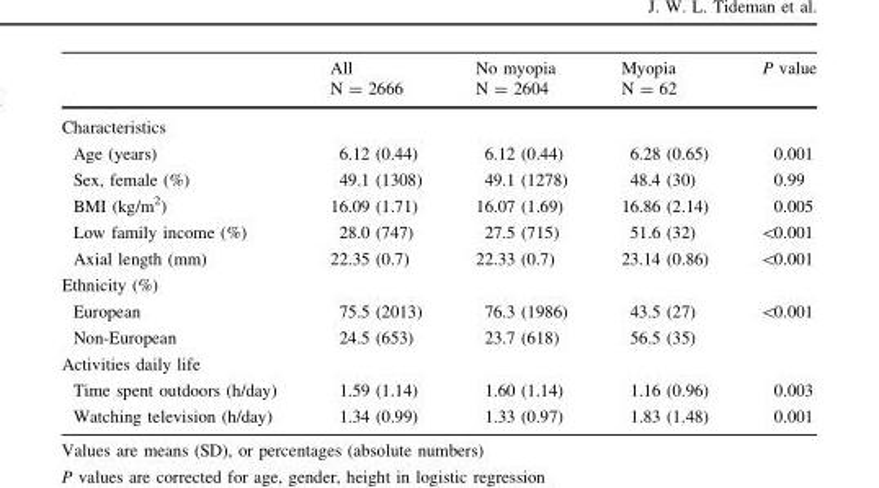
<table><thead><tr><td></td><td>All N = 2666</td><td>No myopia N = 2604</td><td>Myopia N = 62</td><td>P value</td></tr></thead><tbody><tr><td colspan="5">Characteristics</td></tr><tr><td>Age (years)</td><td>6.12 (0.44)</td><td>6.12 (0.44)</td><td>6.28 (0.65)</td><td>0.001</td></tr><tr><td>Sex, female (%)</td><td>49.1 (1308)</td><td>49.1 (1278)</td><td>48.4 (30)</td><td>0.99</td></tr><tr><td>BMI (kg/m<sup>2</sup>)</td><td>16.09 (1.71)</td><td>16.07 (1.69)</td><td>16.86 (2.14)</td><td>0.005</td></tr><tr><td>Low family income (%)</td><td>28.0 (747)</td><td>27.5 (715)</td><td>51.6 (32)</td><td>&lt;0.001</td></tr><tr><td>Axial length (mm)</td><td>22.35 (0.7)</td><td>22.33 (0.7)</td><td>23.14 (0.86)</td><td>&lt;0.001</td></tr><tr><td colspan="5">Ethnicity (%)</td></tr><tr><td>European</td><td>75.5 (2013)</td><td>76.3 (1986)</td><td>43.5 (27)</td><td>&lt;0.001</td></tr><tr><td>Non-European</td><td>24.5 (653)</td><td>23.7 (618)</td><td>56.5 (35)</td><td></td></tr><tr><td colspan="5">Activities daily life</td></tr><tr><td>Time spent outdoors (h/day)</td><td>1.59 (1.14)</td><td>1.60 (1.14)</td><td>1.16 (0.96)</td><td>0.003</td></tr><tr><td>Watching television (h/day)</td><td>1.34 (0.99)</td><td>1.33 (0.97)</td><td>1.83 (1.48)</td><td>0.001</td></tr></tbody></table>